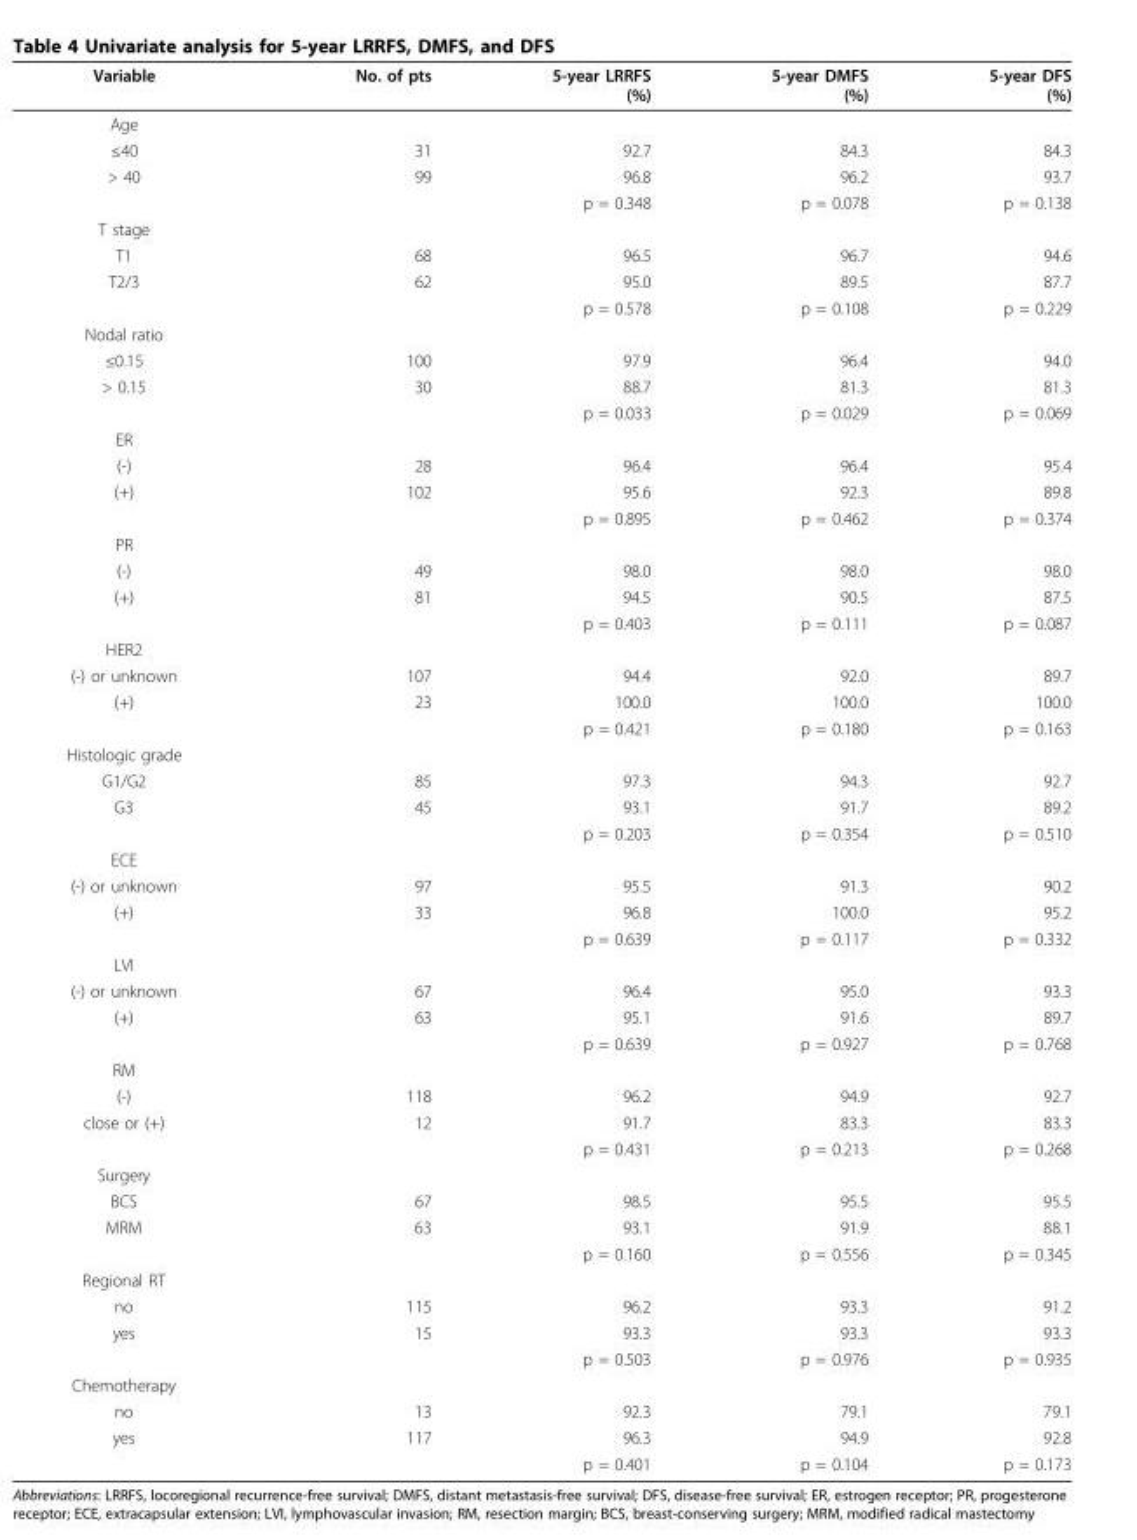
<table><thead><tr><td>Variable</td><td>No. of pts</td><td>5-year LRRFS (%)</td><td>5-year DMFS (%)</td><td>5-year DFS (%)</td></tr></thead><tbody><tr><td colspan="5">Age</td></tr><tr><td>≤40</td><td>31</td><td>92.7</td><td>84.3</td><td>84.3</td></tr><tr><td rowspan="2">&gt; 40</td><td>99</td><td>96.8</td><td>96.2</td><td>93.7</td></tr><tr><td></td><td>p = 0.348</td><td>p = 0.078</td><td>p = 0.138</td></tr><tr><td colspan="5">T stage</td></tr><tr><td>T1</td><td>68</td><td>96.5</td><td>96.7</td><td>94.6</td></tr><tr><td rowspan="2">T2/3</td><td>62</td><td>95.0</td><td>89.5</td><td>87.7</td></tr><tr><td></td><td>p = 0.578</td><td>p = 0.108</td><td>p = 0.229</td></tr><tr><td colspan="5">Nodal ratio</td></tr><tr><td>≤0.15</td><td>100</td><td>97.9</td><td>96.4</td><td>94.0</td></tr><tr><td rowspan="2">&gt; 0.15</td><td>30</td><td>88.7</td><td>81.3</td><td>81.3</td></tr><tr><td></td><td>p = 0.033</td><td>p = 0.029</td><td>p = 0.069</td></tr><tr><td colspan="5">ER</td></tr><tr><td>(-)</td><td>28</td><td>96.4</td><td>96.4</td><td>95.4</td></tr><tr><td rowspan="2">(+)</td><td>102</td><td>95.6</td><td>92.3</td><td>89.8</td></tr><tr><td></td><td>p = 0.895</td><td>p = 0.462</td><td>p = 0.374</td></tr><tr><td colspan="5">PR</td></tr><tr><td>(-)</td><td>49</td><td>98.0</td><td>98.0</td><td>98.0</td></tr><tr><td rowspan="2">(+)</td><td>81</td><td>94.5</td><td>90.5</td><td>87.5</td></tr><tr><td></td><td>p = 0.403</td><td>p = 0.111</td><td>p = 0.087</td></tr><tr><td colspan="5">HER2</td></tr><tr><td>(-) or unknown</td><td>107</td><td>94.4</td><td>92.0</td><td>89.7</td></tr><tr><td rowspan="2">(+)</td><td>23</td><td>100.0</td><td>100.0</td><td>100.0</td></tr><tr><td></td><td>p = 0.421</td><td>p = 0.180</td><td>p = 0.163</td></tr><tr><td colspan="5">Histologic grade</td></tr><tr><td>G1/G2</td><td>85</td><td>97.3</td><td>94.3</td><td>92.7</td></tr><tr><td rowspan="2">G3</td><td>45</td><td>93.1</td><td>91.7</td><td>89.2</td></tr><tr><td></td><td>p = 0.203</td><td>p = 0.354</td><td>p = 0.510</td></tr><tr><td colspan="5">ECE</td></tr><tr><td>(-) or unknown</td><td>97</td><td>95.5</td><td>91.3</td><td>90.2</td></tr><tr><td rowspan="2">(+)</td><td>33</td><td>96.8</td><td>100.0</td><td>95.2</td></tr><tr><td></td><td>p = 0.639</td><td>p = 0.117</td><td>p = 0.332</td></tr><tr><td colspan="5">LVI</td></tr><tr><td>(-) or unknown</td><td>67</td><td>96.4</td><td>95.0</td><td>93.3</td></tr><tr><td rowspan="2">(+)</td><td>63</td><td>95.1</td><td>91.6</td><td>89.7</td></tr><tr><td></td><td>p = 0.639</td><td>p = 0.927</td><td>p = 0.768</td></tr><tr><td colspan="5">RM</td></tr><tr><td>(-)</td><td>118</td><td>96.2</td><td>94.9</td><td>92.7</td></tr><tr><td rowspan="2">close or (+)</td><td>12</td><td>91.7</td><td>83.3</td><td>83.3</td></tr><tr><td></td><td>p = 0.431</td><td>p = 0.213</td><td>p = 0.268</td></tr><tr><td colspan="5">Surgery</td></tr><tr><td>BCS</td><td>67</td><td>98.5</td><td>95.5</td><td>95.5</td></tr><tr><td rowspan="2">MRM</td><td>63</td><td>93.1</td><td>91.9</td><td>88.1</td></tr><tr><td></td><td>p = 0.160</td><td>p = 0.556</td><td>p = 0.345</td></tr><tr><td colspan="5">Regional RT</td></tr><tr><td>no</td><td>115</td><td>96.2</td><td>93.3</td><td>91.2</td></tr><tr><td rowspan="2">yes</td><td>15</td><td>93.3</td><td>93.3</td><td>93.3</td></tr><tr><td></td><td>p = 0.503</td><td>p = 0.976</td><td>p = 0.935</td></tr><tr><td colspan="5">Chemotherapy</td></tr><tr><td>no</td><td>13</td><td>92.3</td><td>79.1</td><td>79.1</td></tr><tr><td rowspan="2">yes</td><td>117</td><td>96.3</td><td>94.9</td><td>92.8</td></tr><tr><td></td><td>p = 0.401</td><td>p = 0.104</td><td>p = 0.173</td></tr></tbody></table>